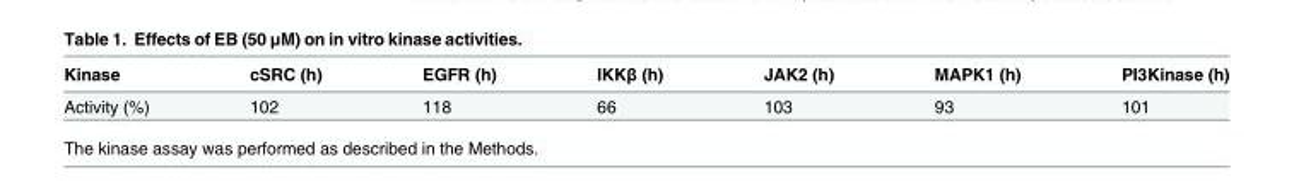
<table><thead><tr><td>Kinase</td><td>cSRC (h)</td><td>EGFR (h)</td><td>IKKβ (h)</td><td>JAK2 (h)</td><td>MAPK1 (h)</td><td>PI3Kinase (h)</td></tr></thead><tbody><tr><td>Activity (%)</td><td>102</td><td>118</td><td>66</td><td>103</td><td>93</td><td>101</td></tr></tbody></table>